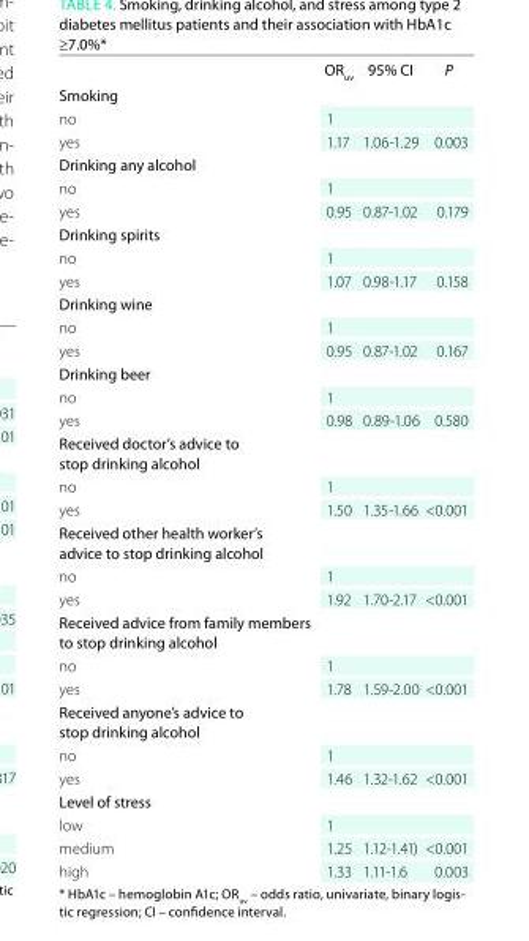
<table><thead><tr><td></td><td>oR<sub>uv</sub></td><td>95% ci</td><td>P</td></tr></thead><tbody><tr><td colspan="4">smoking</td></tr><tr><td>no</td><td>1</td><td></td><td></td></tr><tr><td>yes</td><td>1.17</td><td>1.06-1.29</td><td>0.003</td></tr><tr><td colspan="4">Drinking any alcohol</td></tr><tr><td>no</td><td>1</td><td></td><td></td></tr><tr><td>yes</td><td>0.95</td><td>0.87-1.02</td><td>0.179</td></tr><tr><td colspan="4">Drinking spirits</td></tr><tr><td>no</td><td>1</td><td></td><td></td></tr><tr><td>yes</td><td>1.07</td><td>0.98-1.17</td><td>0.158</td></tr><tr><td colspan="4">Drinking wine</td></tr><tr><td>no</td><td>1</td><td></td><td></td></tr><tr><td>yes</td><td>0.95</td><td>0.87-1.02</td><td>0.167</td></tr><tr><td colspan="4">Drinking beer</td></tr><tr><td>no</td><td>1</td><td></td><td></td></tr><tr><td>yes</td><td>0.98</td><td>0.89-1.06</td><td>0.580</td></tr><tr><td colspan="4">Received doctor’s advice to stop drinking alcohol</td></tr><tr><td>no</td><td>1</td><td></td><td></td></tr><tr><td>yes</td><td>1.50</td><td>1.35-1.66</td><td>&lt;0.001</td></tr><tr><td colspan="4">Received other health worker’s advice to stop drinking alcohol</td></tr><tr><td>no</td><td>1</td><td></td><td></td></tr><tr><td>yes</td><td>1.92</td><td>1.70-2.17</td><td>&lt;0.001</td></tr><tr><td colspan="4">Received advice from family members to stop drinking alcohol</td></tr><tr><td>no</td><td>1</td><td></td><td></td></tr><tr><td>yes</td><td>1.78</td><td>1.59-2.00</td><td>&lt;0.001</td></tr><tr><td colspan="4">Received anyone’s advice to stop drinking alcohol</td></tr><tr><td>no</td><td>1</td><td></td><td></td></tr><tr><td>yes</td><td>1.46</td><td>1.32-1.62</td><td>&lt;0.001</td></tr><tr><td colspan="4">Level of stress</td></tr><tr><td>low</td><td>1</td><td></td><td></td></tr><tr><td>medium</td><td>1.25</td><td>1.12-1.41)</td><td>&lt;0.001</td></tr><tr><td>high</td><td>1.33</td><td>1.11-1.6</td><td>0.003</td></tr></tbody></table>